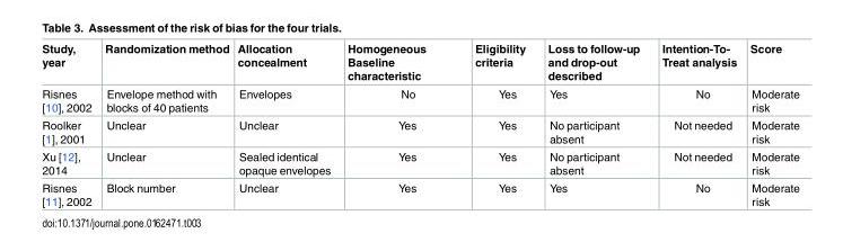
<table><thead><tr><td>Study, year</td><td>Randomization method</td><td>Allocation concealment</td><td>Homogeneous Baseline characteristic</td><td>Eligibility criteria</td><td>Loss to follow-up and drop-out described</td><td>Intention-To- Treat analysis</td><td>Score</td></tr></thead><tbody><tr><td>Risnes [10], 2002</td><td>Envelope method with blocks of 40 patients</td><td>Envelopes</td><td>No</td><td>Yes</td><td>Yes</td><td>No</td><td>Moderate risk</td></tr><tr><td>Roolker [1], 2001</td><td>Unclear</td><td>Unclear</td><td>Yes</td><td>Yes</td><td>No participant absent</td><td>Not needed</td><td>Moderate risk</td></tr><tr><td>Xu [12], 2014</td><td>Unclear</td><td>Sealed identical opaque envelopes</td><td>Yes</td><td>Yes</td><td>No participant absent</td><td>Not needed</td><td>Moderate risk</td></tr><tr><td>Risnes [11], 2002</td><td>Block number</td><td>Unclear</td><td>Yes</td><td>Yes</td><td>Yes</td><td>No</td><td>Moderate risk</td></tr></tbody></table>